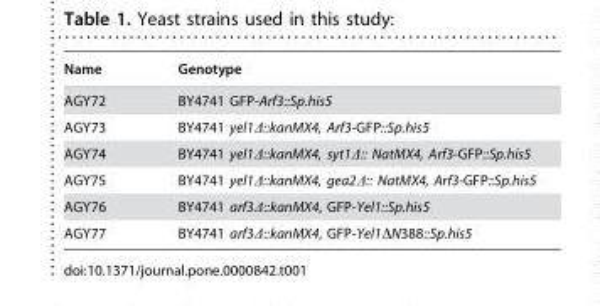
<table><thead><tr><td>Name</td><td>Genotype</td></tr></thead><tbody><tr><td>AGY72</td><td>BY4741 GFP-Arf3::Sp.his5</td></tr><tr><td>AGY73</td><td>BY4741 yel1Δ::kanMX4, Arf3-GFP::Sp.his5</td></tr><tr><td>AGY74</td><td>BY4741 yel1Δ::kanMX4, syt1Δ:: NatMX4, Arf3-GFP::Sp.his5</td></tr><tr><td>AGY75</td><td>BY4741 yel1Δ::kanMX4, gea2Δ:: NatMX4, Arf3-GFP::Sp.his5</td></tr><tr><td>AGY76</td><td>BY4741 arf3Δ::kanMX4, GFP-Yel1::Sp.his5</td></tr><tr><td>AGY77</td><td>BY4741 arf3Δ::kanMX4, GFP-Yel1ΔN388::Sp.his5</td></tr></tbody></table>